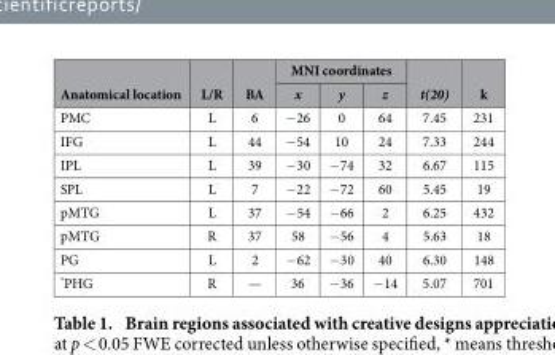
<table><thead><tr><td rowspan="2">Anatomical location</td><td rowspan="2">L/R</td><td rowspan="2">BA</td><td colspan="3">MNI coordinates</td><td rowspan="2">t(20)</td><td rowspan="2">k</td></tr><tr><td>x</td><td>y</td><td>z</td></tr></thead><tbody><tr><td>PMC</td><td>L</td><td>6</td><td>− 26</td><td>0</td><td>64</td><td>7.45</td><td>231</td></tr><tr><td>IFG</td><td>L</td><td>44</td><td>− 54</td><td>10</td><td>24</td><td>7.33</td><td>244</td></tr><tr><td>IPL</td><td>L</td><td>39</td><td>− 30</td><td>− 74</td><td>32</td><td>6.67</td><td>115</td></tr><tr><td>SPL</td><td>L</td><td>7</td><td>− 22</td><td>− 72</td><td>60</td><td>5.45</td><td>19</td></tr><tr><td>pMTG</td><td>L</td><td>37</td><td>− 54</td><td>− 66</td><td>2</td><td>6.25</td><td>432</td></tr><tr><td>pMTG</td><td>R</td><td>37</td><td>58</td><td>− 56</td><td>4</td><td>5.63</td><td>18</td></tr><tr><td>PG</td><td>L</td><td>2</td><td>− 62</td><td>− 30</td><td>40</td><td>6.30</td><td>148</td></tr><tr><td>*PHG</td><td>R</td><td>—</td><td>36</td><td>− 36</td><td>− 14</td><td>5.07</td><td>701</td></tr></tbody></table>